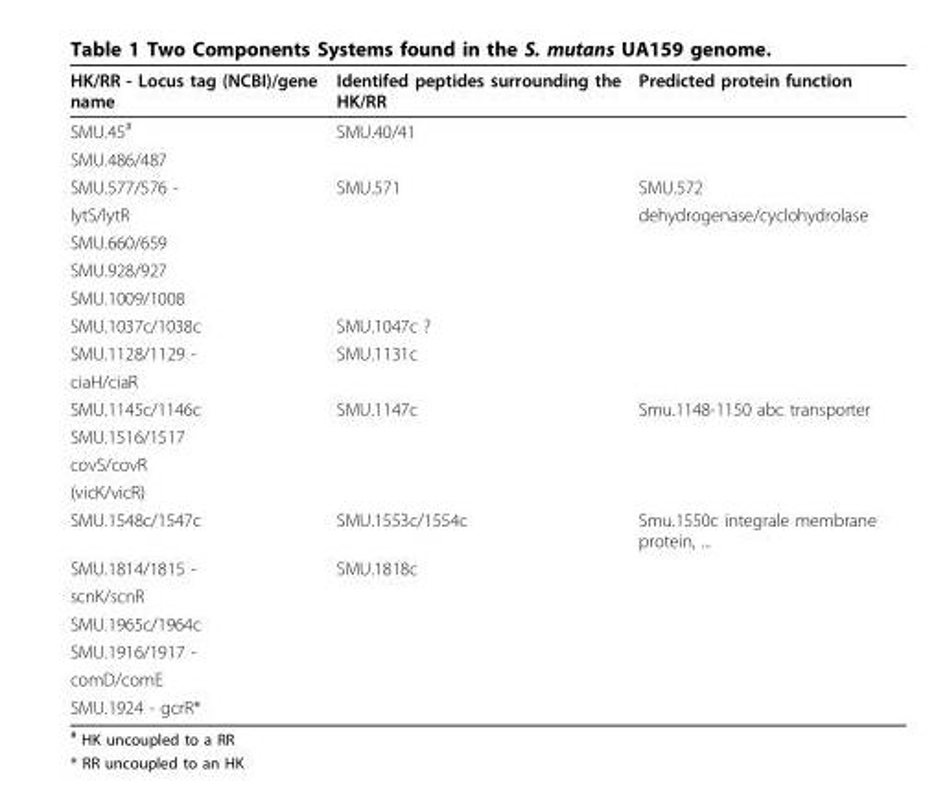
<table><thead><tr><td>HK/RR - Locus tag (NCBI)/gene name</td><td>Identifed peptides surrounding the HK/RR</td><td>Predicted protein function</td></tr></thead><tbody><tr><td>SMU.45<sup>#</sup></td><td>SMU.40/41</td><td></td></tr><tr><td colspan="3">SMU.486/487</td></tr><tr><td>SMU.577/576 -</td><td>SMU.571</td><td>SMU.572</td></tr><tr><td>lytS/lytR</td><td></td><td>dehydrogenase/cyclohydrolase</td></tr><tr><td colspan="3">SMU.660/659</td></tr><tr><td colspan="3">SMU.928/927</td></tr><tr><td colspan="3">SMU.1009/1008</td></tr><tr><td>SMU.1037c/1038c</td><td>SMU.1047c ?</td><td></td></tr><tr><td>SMU.1128/1129 -</td><td>SMU.1131c</td><td></td></tr><tr><td colspan="3">ciaH/ciaR</td></tr><tr><td>SMU.1145c/1146c</td><td>SMU.1147c</td><td>Smu.1148-1150 abc transporter</td></tr><tr><td colspan="3">SMU.1516/1517</td></tr><tr><td colspan="3">covS/covR</td></tr><tr><td colspan="3">(vicK/vicR)</td></tr><tr><td>SMU.1548c/1547c</td><td>SMU.1553c/1554c</td><td>Smu.1550c integrale membrane protein, ...</td></tr><tr><td>SMU.1814/1815 -</td><td>SMU.1818c</td><td></td></tr><tr><td colspan="3">scnK/scnR</td></tr><tr><td colspan="3">SMU.1965c/1964c</td></tr><tr><td colspan="3">SMU.1916/1917 -</td></tr><tr><td colspan="3">comD/comE</td></tr><tr><td>SMU.1924 - gcrR*</td><td></td><td></td></tr></tbody></table>